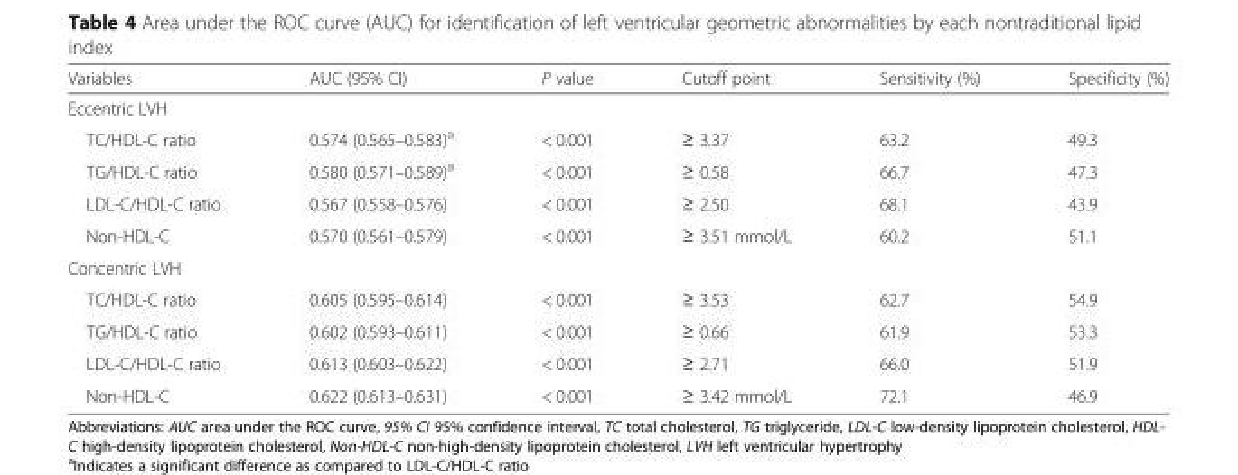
<table><thead><tr><td>Variables</td><td>AUC (95% CI)</td><td>P value</td><td>Cutoff point</td><td>Sensitivity (%)</td><td>Specificity (%)</td></tr></thead><tbody><tr><td colspan="6">Eccentric LVH</td></tr><tr><td>TC/HDL-C ratio</td><td>0.574 (0.565–0.583)<sup>a</sup></td><td>&lt; 0.001</td><td>≥ 3.37</td><td>63.2</td><td>49.3</td></tr><tr><td>TG/HDL-C ratio</td><td>0.580 (0.571–0.589)<sup>a</sup></td><td>&lt; 0.001</td><td>≥ 0.58</td><td>66.7</td><td>47.3</td></tr><tr><td>LDL-C/HDL-C ratio</td><td>0.567 (0.558–0.576)</td><td>&lt; 0.001</td><td>≥ 2.50</td><td>68.1</td><td>43.9</td></tr><tr><td>Non-HDL-C</td><td>0.570 (0.561–0.579)</td><td>&lt; 0.001</td><td>≥ 3.51 mmol/L</td><td>60.2</td><td>51.1</td></tr><tr><td colspan="6">Concentric LVH</td></tr><tr><td>TC/HDL-C ratio</td><td>0.605 (0.595–0.614)</td><td>&lt; 0.001</td><td>≥ 3.53</td><td>62.7</td><td>54.9</td></tr><tr><td>TG/HDL-C ratio</td><td>0.602 (0.593–0.611)</td><td>&lt; 0.001</td><td>≥ 0.66</td><td>61.9</td><td>53.3</td></tr><tr><td>LDL-C/HDL-C ratio</td><td>0.613 (0.603–0.622)</td><td>&lt; 0.001</td><td>≥ 2.71</td><td>66.0</td><td>51.9</td></tr><tr><td>Non-HDL-C</td><td>0.622 (0.613–0.631)</td><td>&lt; 0.001</td><td>≥ 3.42 mmol/L</td><td>72.1</td><td>46.9</td></tr></tbody></table>